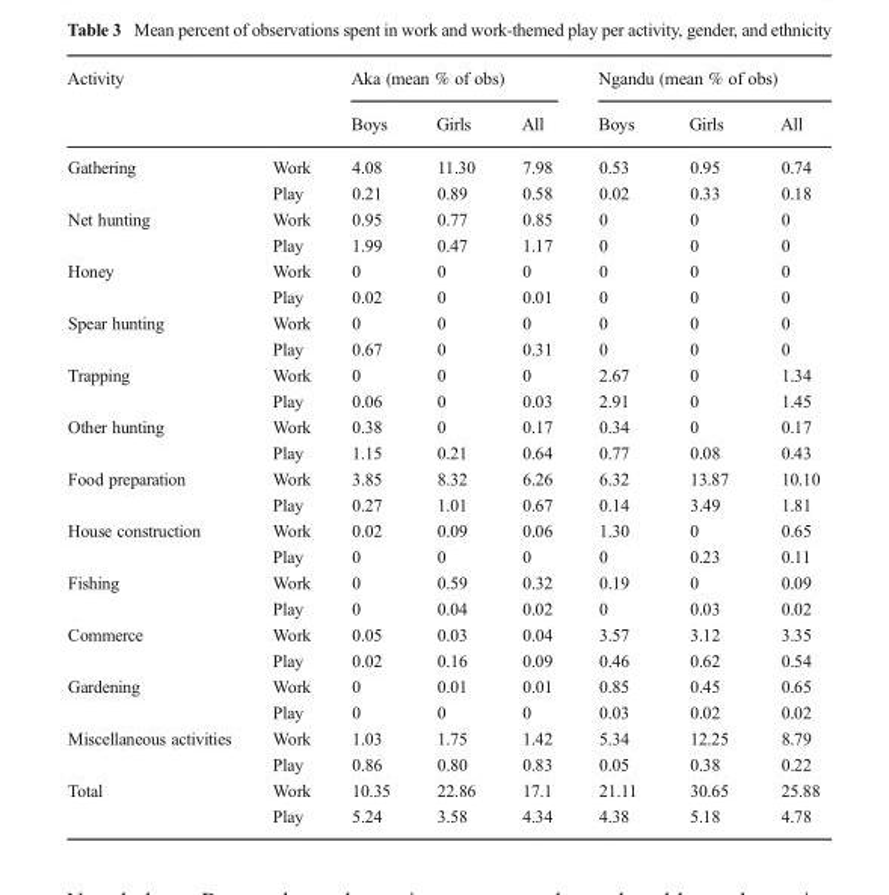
<table><thead><tr><td rowspan="2">Activity</td><td rowspan="2"></td><td colspan="3">Aka (mean % of obs)</td><td colspan="3">Ngandu (mean % of obs)</td></tr><tr><td>Boys</td><td>Girls</td><td>All</td><td>Boys</td><td>Girls</td><td>All</td></tr></thead><tbody><tr><td rowspan="2">Gathering</td><td>Work</td><td>4.08</td><td>11.30</td><td>7.98</td><td>0.53</td><td>0.95</td><td>0.74</td></tr><tr><td>Play</td><td>0.21</td><td>0.89</td><td>0.58</td><td>0.02</td><td>0.33</td><td>0.18</td></tr><tr><td rowspan="2">Net hunting</td><td>Work</td><td>0.95</td><td>0.77</td><td>0.85</td><td>0</td><td>0</td><td>0</td></tr><tr><td>Play</td><td>1.99</td><td>0.47</td><td>1.17</td><td>0</td><td>0</td><td>0</td></tr><tr><td rowspan="2">Honey</td><td>Work</td><td>0</td><td>0</td><td>0</td><td>0</td><td>0</td><td>0</td></tr><tr><td>Play</td><td>0.02</td><td>0</td><td>0.01</td><td>0</td><td>0</td><td>0</td></tr><tr><td rowspan="2">Spear hunting</td><td>Work</td><td>0</td><td>0</td><td>0</td><td>0</td><td>0</td><td>0</td></tr><tr><td>Play</td><td>0.67</td><td>0</td><td>0.31</td><td>0</td><td>0</td><td>0</td></tr><tr><td rowspan="2">Trapping</td><td>Work</td><td>0</td><td>0</td><td>0</td><td>2.67</td><td>0</td><td>1.34</td></tr><tr><td>Play</td><td>0.06</td><td>0</td><td>0.03</td><td>2.91</td><td>0</td><td>1.45</td></tr><tr><td rowspan="2">Other hunting</td><td>Work</td><td>0.38</td><td>0</td><td>0.17</td><td>0.34</td><td>0</td><td>0.17</td></tr><tr><td>Play</td><td>1.15</td><td>0.21</td><td>0.64</td><td>0.77</td><td>0.08</td><td>0.43</td></tr><tr><td rowspan="2">Food preparation</td><td>Work</td><td>3.85</td><td>8.32</td><td>6.26</td><td>6.32</td><td>13.87</td><td>10.10</td></tr><tr><td>Play</td><td>0.27</td><td>1.01</td><td>0.67</td><td>0.14</td><td>3.49</td><td>1.81</td></tr><tr><td rowspan="2">House construction</td><td>Work</td><td>0.02</td><td>0.09</td><td>0.06</td><td>1.30</td><td>0</td><td>0.65</td></tr><tr><td>Play</td><td>0</td><td>0</td><td>0</td><td>0</td><td>0.23</td><td>0.11</td></tr><tr><td rowspan="2">Fishing</td><td>Work</td><td>0</td><td>0.59</td><td>0.32</td><td>0.19</td><td>0</td><td>0.09</td></tr><tr><td>Play</td><td>0</td><td>0.04</td><td>0.02</td><td>0</td><td>0.03</td><td>0.02</td></tr><tr><td rowspan="2">Commerce</td><td>Work</td><td>0.05</td><td>0.03</td><td>0.04</td><td>3.57</td><td>3.12</td><td>3.35</td></tr><tr><td>Play</td><td>0.02</td><td>0.16</td><td>0.09</td><td>0.46</td><td>0.62</td><td>0.54</td></tr><tr><td rowspan="2">Gardening</td><td>Work</td><td>0</td><td>0.01</td><td>0.01</td><td>0.85</td><td>0.45</td><td>0.65</td></tr><tr><td>Play</td><td>0</td><td>0</td><td>0</td><td>0.03</td><td>0.02</td><td>0.02</td></tr><tr><td rowspan="2">Miscellaneous activities</td><td>Work</td><td>1.03</td><td>1.75</td><td>1.42</td><td>5.34</td><td>12.25</td><td>8.79</td></tr><tr><td>Play</td><td>0.86</td><td>0.80</td><td>0.83</td><td>0.05</td><td>0.38</td><td>0.22</td></tr><tr><td rowspan="2">Total</td><td>Work</td><td>10.35</td><td>22.86</td><td>17.1</td><td>21.11</td><td>30.65</td><td>25.88</td></tr><tr><td>Play</td><td>5.24</td><td>3.58</td><td>4.34</td><td>4.38</td><td>5.18</td><td>4.78</td></tr></tbody></table>